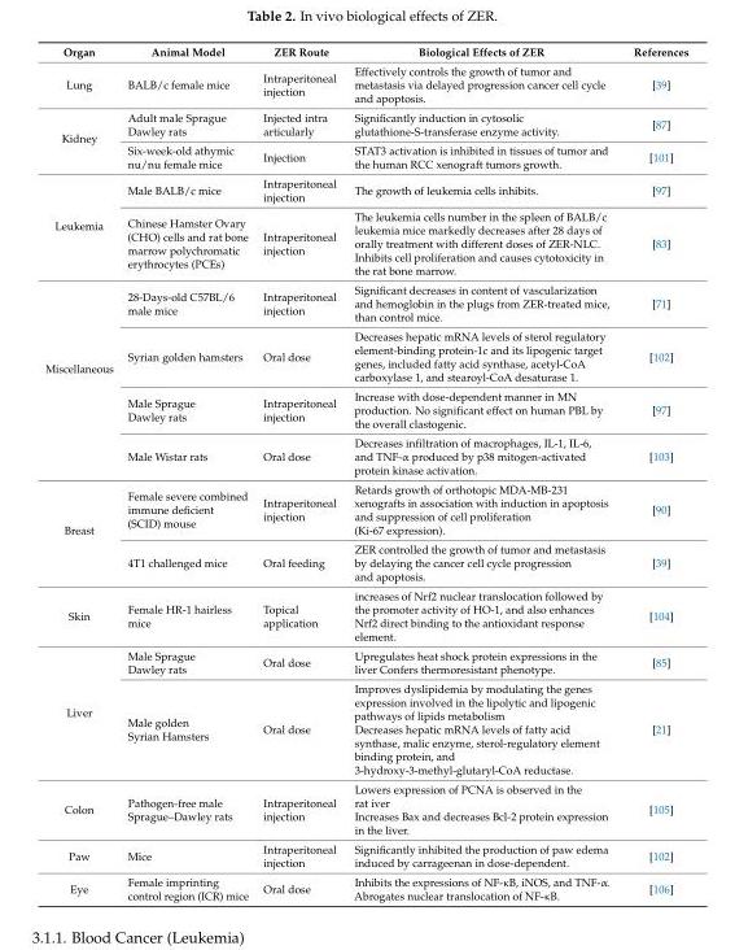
<table><thead><tr><td>Organ</td><td>Animal Model</td><td>ZER Route</td><td>Biological Effects of ZER</td><td>References</td></tr></thead><tbody><tr><td>Lung</td><td>BALB/c female mice</td><td>Intraperitoneal injection</td><td>Effectively controls the growth of tumor and metastasis via delayed progression cancer cell cycle and apoptosis.</td><td>[39]</td></tr><tr><td rowspan="2">Kidney</td><td>Adult male Sprague Dawley rats</td><td>Injected intra articularly</td><td>Significantly induction in cytosolic glutathione-S-transferase enzyme activity.</td><td>[87]</td></tr><tr><td>Six-week-old athymic nu/nu female mice</td><td>Injection</td><td>STAT3 activation is inhibited in tissues of tumor and the human RCC xenograft tumors growth.</td><td>[101]</td></tr><tr><td rowspan="2">Leukemia</td><td>Male BALB/c mice</td><td>Intraperitoneal injection</td><td>The growth of leukemia cells inhibits.</td><td>[97]</td></tr><tr><td>Chinese Hamster Ovary (CHO) cells and rat bone marrow polychromatic erythrocytes (PCEs)</td><td>Intraperitoneal injection</td><td>The leukemia cells number in the spleen of BALB/c leukemia mice markedly decreases after 28 days of orally treatment with different doses of ZER-NLC. Inhibits cell proliferation and causes cytotoxicity in the rat bone marrow.</td><td>[83]</td></tr><tr><td rowspan="4">Miscellaneous</td><td>28-Days-old C57BL/6 male mice</td><td>Intraperitoneal injection</td><td>Significant decreases in content of vascularization and hemoglobin in the plugs from ZER-treated mice, than control mice.</td><td>[71]</td></tr><tr><td>Syrian golden hamsters</td><td>Oral dose</td><td>Decreases hepatic mRNA levels of sterol regulatory element-binding protein-1c and its lipogenic target genes, included fatty acid synthase, acetyl-CoA carboxylase 1, and stearoyl-CoA desaturase 1.</td><td>[102]</td></tr><tr><td>Male Sprague Dawley rats</td><td>Intraperitoneal injection</td><td>Increase with dose-dependent manner in MN production. No significant effect on human PBL by the overall clastogenic.</td><td>[97]</td></tr><tr><td>Male Wistar rats</td><td>Oral dose</td><td>Decreases infiltration of macrophages, IL-1, IL-6, and TNF-α produced by p38 mitogen-activated protein kinase activation.</td><td>[103]</td></tr><tr><td rowspan="2">Breast</td><td>Female severe combined immune deficient (SCID) mouse</td><td>Intraperitoneal injection</td><td>Retards growth of orthotopic MDA-MB-231 xenografts in association with induction in apoptosis and suppression of cell proliferation (Ki-67 expression).</td><td>[90]</td></tr><tr><td>4T1 challenged mice</td><td>Oral feeding</td><td>ZER controlled the growth of tumor and metastasis by delaying the cancer cell cycle progression and apoptosis.</td><td>[39]</td></tr><tr><td>Skin</td><td>Female HR-1 hairless mice</td><td>Topical application</td><td>increases of Nrf2 nuclear translocation followed by the promoter activity of HO-1, and also enhances Nrf2 direct binding to the antioxidant response element.</td><td>[104]</td></tr><tr><td rowspan="2">Liver</td><td>Male Sprague Dawley rats</td><td>Oral dose</td><td>Upregulates heat shock protein expressions in the liver Confers thermoresistant phenotype.</td><td>[85]</td></tr><tr><td>Male golden Syrian Hamsters</td><td>Oral dose</td><td>Improves dyslipidemia by modulating the genes expression involved in the lipolytic and lipogenic pathways of lipids metabolism Decreases hepatic mRNA levels of fatty acid synthase, malic enzyme, sterol-regulatory element binding protein, and 3-hydroxy-3-methyl-glutaryl-CoA reductase.</td><td>[21]</td></tr><tr><td>Colon</td><td>Pathogen-free male Sprague–Dawley rats</td><td>Intraperitoneal injection</td><td>Lowers expression of PCNA is observed in the rat iver Increases Bax and decreases Bcl-2 protein expression in the liver.</td><td>[105]</td></tr><tr><td>Paw</td><td>Mice</td><td>Intraperitoneal injection</td><td>Significantly inhibited the production of paw edema induced by carrageenan in dose-dependent.</td><td>[102]</td></tr><tr><td>Eye</td><td>Female imprinting control region (ICR) mice</td><td>Oral dose</td><td>Inhibits the expressions of NF-κB, iNOS, and TNF-α. Abrogates nuclear translocation of NF-κB.</td><td>[106]</td></tr></tbody></table>